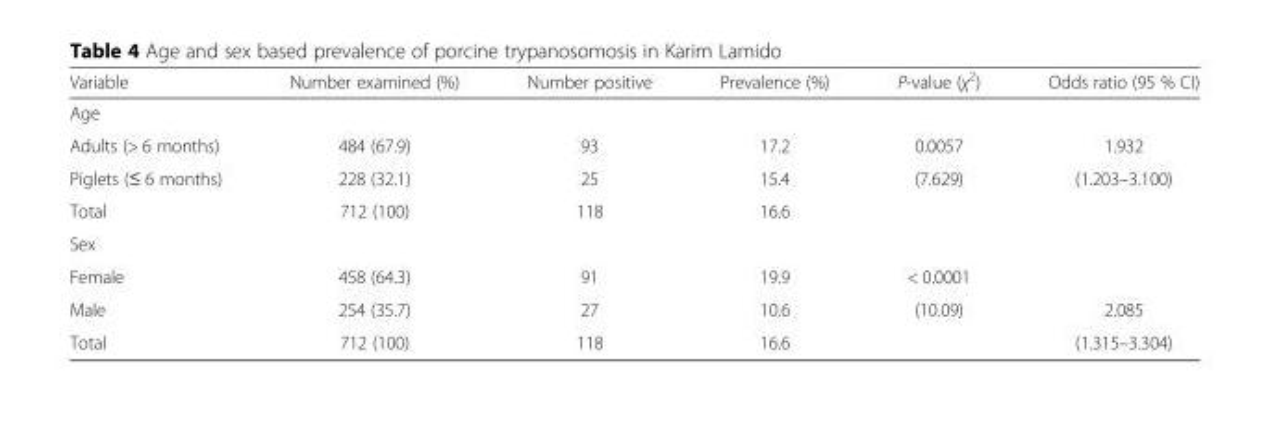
<table><thead><tr><td>Variable</td><td>Number examined (%)</td><td>Number positive</td><td>Prevalence (%)</td><td>P-value (χ<sup>2</sup>)</td><td>Odds ratio (95 % CI)</td></tr></thead><tbody><tr><td colspan="6">Age</td></tr><tr><td>Adults (&gt; 6 months)</td><td>484 (67.9)</td><td>93</td><td>17.2</td><td>0.0057</td><td>1.932</td></tr><tr><td>Piglets (≤ 6 months)</td><td>228 (32.1)</td><td>25</td><td>15.4</td><td>(7.629)</td><td>(1.203–3.100)</td></tr><tr><td>Total</td><td>712 (100)</td><td>118</td><td>16.6</td><td></td><td></td></tr><tr><td colspan="6">Sex</td></tr><tr><td>Female</td><td>458 (64.3)</td><td>91</td><td>19.9</td><td>&lt; 0.0001</td><td></td></tr><tr><td>Male</td><td>254 (35.7)</td><td>27</td><td>10.6</td><td>(10.09)</td><td>2.085</td></tr><tr><td>Total</td><td>712 (100)</td><td>118</td><td>16.6</td><td></td><td>(1.315–3.304)</td></tr></tbody></table>